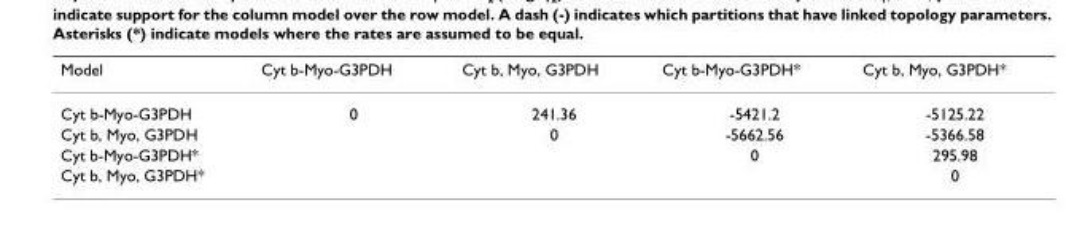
<table><thead><tr><td>Model</td><td>Cyt b-Myo-G3PDH</td><td>Cyt b, Myo, G3PDH</td><td>Cyt b-Myo-G3PDH*</td><td>Cyt b, Myo, G3PDH*</td></tr></thead><tbody><tr><td>Cyt b-Myo-G3PDH</td><td>0</td><td>241.36</td><td>-5421.2</td><td>-5125.22</td></tr><tr><td>Cyt b, Myo, G3PDH</td><td></td><td>0</td><td>-5662.56</td><td>-5366.58</td></tr><tr><td>Cyt b-Myo-G3PDH*</td><td></td><td></td><td>0</td><td>295.98</td></tr><tr><td>Cyt b, Myo, G3PDH*</td><td></td><td></td><td></td><td>0</td></tr></tbody></table>